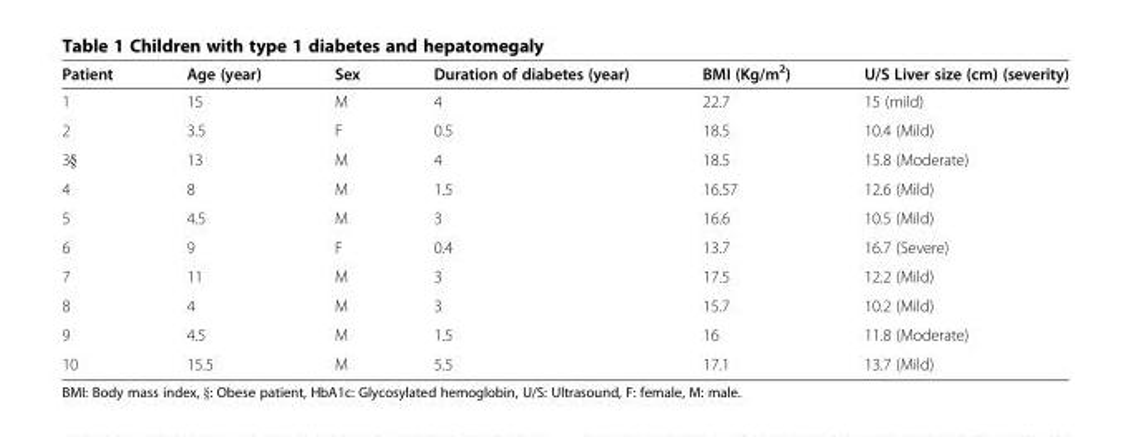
<table><thead><tr><td>Patient</td><td>Age (year)</td><td>Sex</td><td>Duration of diabetes (year)</td><td>BMI (Kg/m<sup>2</sup>)</td><td>U/S Liver size (cm) (severity)</td></tr></thead><tbody><tr><td>1</td><td>15</td><td>M</td><td>4</td><td>22.7</td><td>15 (mild)</td></tr><tr><td>2</td><td>3.5</td><td>F</td><td>0.5</td><td>18.5</td><td>10.4 (Mild)</td></tr><tr><td>3§</td><td>13</td><td>M</td><td>4</td><td>18.5</td><td>15.8 (Moderate)</td></tr><tr><td>4</td><td>8</td><td>M</td><td>1.5</td><td>16.57</td><td>12.6 (Mild)</td></tr><tr><td>5</td><td>4.5</td><td>M</td><td>3</td><td>16.6</td><td>10.5 (Mild)</td></tr><tr><td>6</td><td>9</td><td>F</td><td>0.4</td><td>13.7</td><td>16.7 (Severe)</td></tr><tr><td>7</td><td>11</td><td>M</td><td>3</td><td>17.5</td><td>12.2 (Mild)</td></tr><tr><td>8</td><td>4</td><td>M</td><td>3</td><td>15.7</td><td>10.2 (Mild)</td></tr><tr><td>9</td><td>4.5</td><td>M</td><td>1.5</td><td>16</td><td>11.8 (Moderate)</td></tr><tr><td>10</td><td>15.5</td><td>M</td><td>5.5</td><td>17.1</td><td>13.7 (Mild)</td></tr></tbody></table>